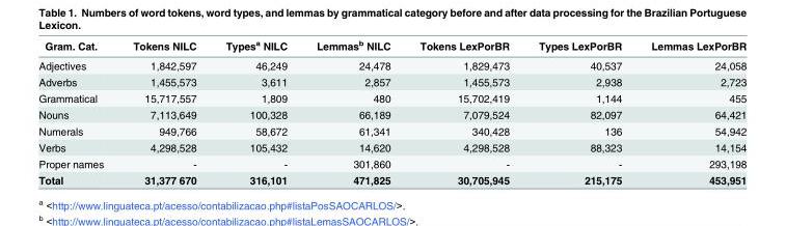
<table><thead><tr><td>Gram. Cat.</td><td>Tokens NILC</td><td>Types<sup>a</sup> NILC</td><td>Lemmas<sup>b</sup> NILC</td><td>Tokens LexPorBR</td><td>Types LexPorBR</td><td>Lemmas LexPorBR</td></tr></thead><tbody><tr><td>Adjectives</td><td>1,842,597</td><td>46,249</td><td>24,478</td><td>1,829,473</td><td>40,537</td><td>24,058</td></tr><tr><td>Adverbs</td><td>1,455,573</td><td>3,611</td><td>2,857</td><td>1,455,573</td><td>2,938</td><td>2,723</td></tr><tr><td>Grammatical</td><td>15,717,557</td><td>1,809</td><td>480</td><td>15,702,419</td><td>1,144</td><td>455</td></tr><tr><td>Nouns</td><td>7,113,649</td><td>100,328</td><td>66,189</td><td>7,079,524</td><td>82,097</td><td>64,421</td></tr><tr><td>Numerals</td><td>949,766</td><td>58,672</td><td>61,341</td><td>340,428</td><td>136</td><td>54,942</td></tr><tr><td>Verbs</td><td>4,298,528</td><td>105,432</td><td>14,620</td><td>4,298,528</td><td>88,323</td><td>14,154</td></tr><tr><td>Proper names</td><td>-</td><td>-</td><td>301,860</td><td>-</td><td>-</td><td>293,198</td></tr><tr><td>Total</td><td>31,377 670</td><td>316,101</td><td>471,825</td><td>30,705,945</td><td>215,175</td><td>453,951</td></tr></tbody></table>